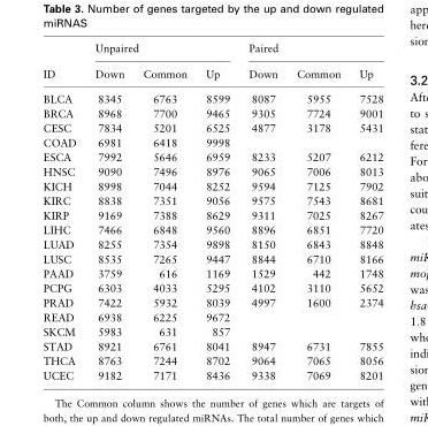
<table><thead><tr><td rowspan="2">ID</td><td colspan="3">Unpaired</td><td colspan="3">Paired</td></tr><tr><td>Down</td><td>Common</td><td>Up</td><td>Down</td><td>Common</td><td>Up</td></tr></thead><tbody><tr><td>BLCA</td><td>8345</td><td>6763</td><td>8599</td><td>8087</td><td>5955</td><td>7528</td></tr><tr><td>BRCA</td><td>8968</td><td>7700</td><td>9465</td><td>9305</td><td>7724</td><td>9001</td></tr><tr><td>CESC</td><td>7834</td><td>5201</td><td>6525</td><td>4877</td><td>3178</td><td>5431</td></tr><tr><td>COAD</td><td>6981</td><td>6418</td><td>9998</td><td></td><td></td><td></td></tr><tr><td>ESCA</td><td>7992</td><td>5646</td><td>6959</td><td>8233</td><td>5207</td><td>6212</td></tr><tr><td>HNSC</td><td>9090</td><td>7496</td><td>8976</td><td>9065</td><td>7006</td><td>8013</td></tr><tr><td>KICH</td><td>8998</td><td>7044</td><td>8252</td><td>9594</td><td>7125</td><td>7902</td></tr><tr><td>KIRC</td><td>8838</td><td>7351</td><td>9056</td><td>9575</td><td>7543</td><td>8681</td></tr><tr><td>KIRP</td><td>9169</td><td>7388</td><td>8629</td><td>9311</td><td>7025</td><td>8267</td></tr><tr><td>LIHC</td><td>7466</td><td>6848</td><td>9560</td><td>8896</td><td>6851</td><td>7720</td></tr><tr><td>LUAD</td><td>8255</td><td>7354</td><td>9898</td><td>8150</td><td>6843</td><td>8848</td></tr><tr><td>LUSC</td><td>8535</td><td>7265</td><td>9447</td><td>8844</td><td>6710</td><td>8166</td></tr><tr><td>PAAD</td><td>3759</td><td>616</td><td>1169</td><td>1529</td><td>442</td><td>1748</td></tr><tr><td>PCPG</td><td>6303</td><td>4033</td><td>5295</td><td>4102</td><td>3110</td><td>5652</td></tr><tr><td>PRAD</td><td>7422</td><td>5932</td><td>8039</td><td>4997</td><td>1600</td><td>2374</td></tr><tr><td>READ</td><td>6938</td><td>6225</td><td>9672</td><td></td><td></td><td></td></tr><tr><td>SKCM</td><td>5983</td><td>631</td><td>857</td><td></td><td></td><td></td></tr><tr><td>STAD</td><td>8921</td><td>6761</td><td>8041</td><td>8947</td><td>6731</td><td>7855</td></tr><tr><td>THCA</td><td>8763</td><td>7244</td><td>8702</td><td>9064</td><td>7065</td><td>8056</td></tr><tr><td>UCEC</td><td>9182</td><td>7171</td><td>8436</td><td>9338</td><td>7069</td><td>8201</td></tr></tbody></table>